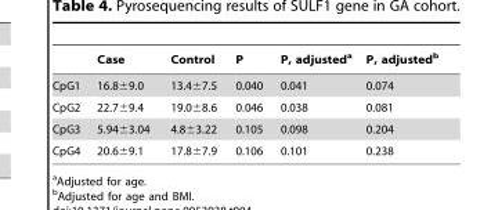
<table><thead><tr><td></td><td>Case</td><td>Control</td><td>P</td><td>P, adjusted<sup>a</sup></td><td>P, adjusted<sup>b</sup></td></tr></thead><tbody><tr><td>CpG1</td><td>16.8±9.0</td><td>13.4±7.5</td><td>0.040</td><td>0.041</td><td>0.074</td></tr><tr><td>CpG2</td><td>22.7±9.4</td><td>19.0±8.6</td><td>0.046</td><td>0.038</td><td>0.081</td></tr><tr><td>CpG3</td><td>5.94±3.04</td><td>4.8±3.22</td><td>0.105</td><td>0.098</td><td>0.204</td></tr><tr><td>CpG4</td><td>20.6±9.1</td><td>17.8±7.9</td><td>0.106</td><td>0.101</td><td>0.238</td></tr></tbody></table>